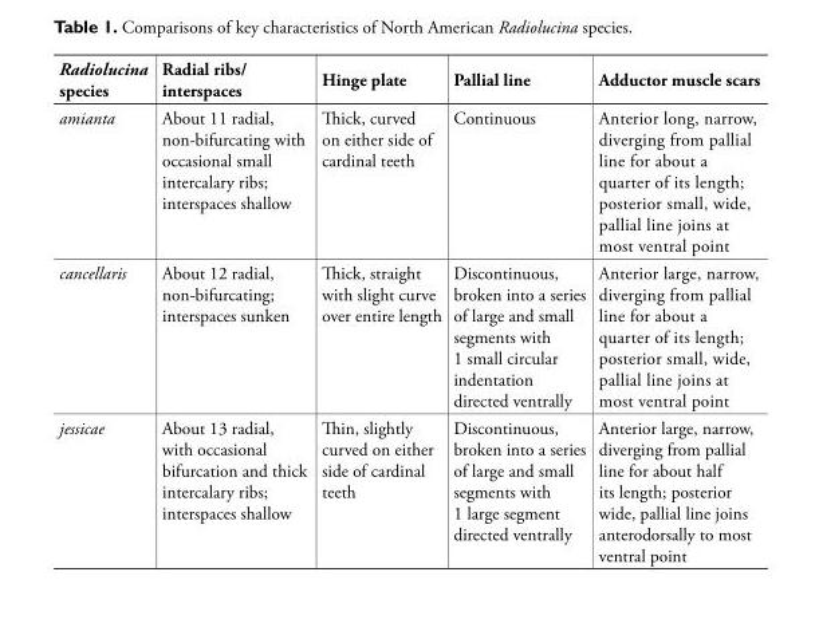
<table><thead><tr><td>Radiolucina species</td><td>Radial ribs/ interspaces</td><td>Hinge plate</td><td>Pallial line</td><td>Adductor muscle scars</td></tr></thead><tbody><tr><td>amianta</td><td>About 11 radial, non-bifurcating with occasional small intercalary ribs; interspaces shallow</td><td>Thick, curved on either side of cardinal teeth</td><td>Continuous</td><td>Anterior long, narrow, diverging from pallial line for about a quarter of its length; posterior small, wide, pallial line joins at most ventral point</td></tr><tr><td>cancellaris</td><td>About 12 radial, non-bifurcating; interspaces sunken</td><td>Thick, straight with slight curve over entire length</td><td>Discontinuous, broken into a series of large and small segments with 1 small circular indentation directed ventrally</td><td>Anterior large, narrow, diverging from pallial line for about a quarter of its length; posterior small, wide, pallial line joins at most ventral point</td></tr><tr><td>jessicae</td><td>About 13 radial, with occasional bifurcation and thick intercalary ribs; interspaces shallow</td><td>Thin, slightly curved on either side of cardinal teeth</td><td>Discontinuous, broken into a series of large and small segments with 1 large segment directed ventrally</td><td>Anterior large, narrow, diverging from pallial line for about half its length; posterior wide, pallial line joins anterodorsally to most ventral point</td></tr></tbody></table>